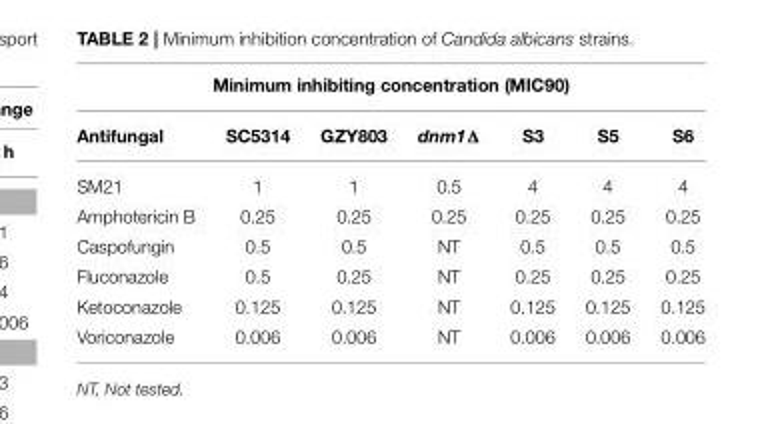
<table><thead><tr><td colspan="7">Minimum inhibiting concentration (MIC90)</td></tr><tr><td>Antifungal</td><td>SC5314</td><td>GZY803</td><td>dnm1Δ</td><td>S3</td><td>S5</td><td>S6</td></tr></thead><tbody><tr><td>SM21</td><td>1</td><td>1</td><td>0.5</td><td>4</td><td>4</td><td>4</td></tr><tr><td>Amphotericin B</td><td>0.25</td><td>0.25</td><td>0.25</td><td>0.25</td><td>0.25</td><td>0.25</td></tr><tr><td>Caspofungin</td><td>0.5</td><td>0.5</td><td>NT</td><td>0.5</td><td>0.5</td><td>0.5</td></tr><tr><td>Fluconazole</td><td>0.5</td><td>0.25</td><td>NT</td><td>0.25</td><td>0.25</td><td>0.25</td></tr><tr><td>Ketoconazole</td><td>0.125</td><td>0.125</td><td>NT</td><td>0.125</td><td>0.125</td><td>0.125</td></tr><tr><td>Voriconazole</td><td>0.006</td><td>0.006</td><td>NT</td><td>0.006</td><td>0.006</td><td>0.006</td></tr></tbody></table>